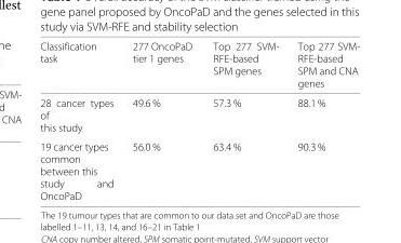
<table><thead><tr><td>Classification task</td><td>277 OncoPaD tier 1 genes</td><td>Top 277 SVM- RFE-based SPM genes</td><td>Top 277 SVM- RFE-based SPM and CNA genes</td></tr></thead><tbody><tr><td>28 cancer types of this study</td><td>49.6 %</td><td>57.3 %</td><td>88.1 %</td></tr><tr><td>19 cancer types common between this study and OncoPaD</td><td>56.0 %</td><td>63.4 %</td><td>90.3 %</td></tr></tbody></table>